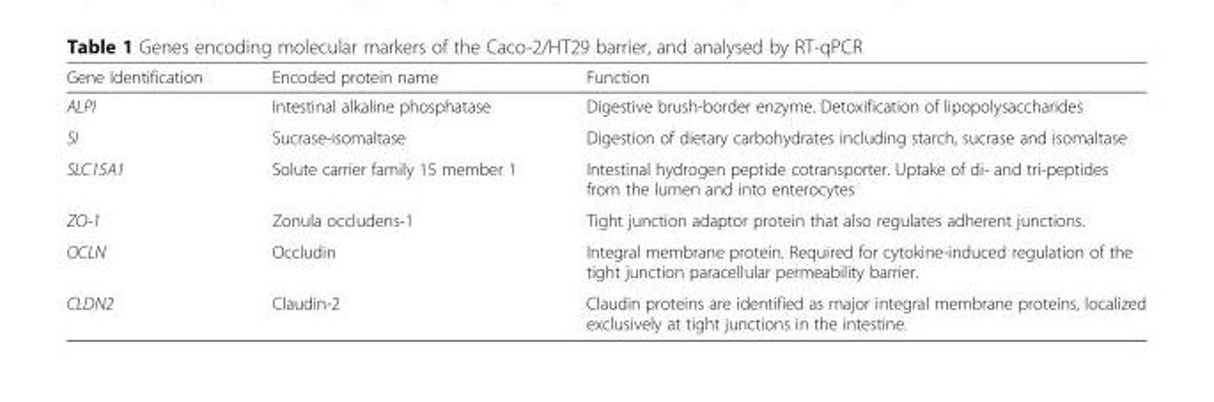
<table><thead><tr><td>Gene Identification</td><td>Encoded protein name</td><td>Function</td></tr></thead><tbody><tr><td>ALPI</td><td>Intestinal alkaline phosphatase</td><td>Digestive brush-border enzyme. Detoxification of lipopolysaccharides</td></tr><tr><td>SI</td><td>Sucrase-isomaltase</td><td>Digestion of dietary carbohydrates including starch, sucrase and isomaltase</td></tr><tr><td>SLC15A1</td><td>Solute carrier family 15 member 1</td><td>Intestinal hydrogen peptide cotransporter. Uptake of di- and tri-peptides from the lumen and into enterocytes</td></tr><tr><td>ZO-1</td><td>Zonula occludens-1</td><td>Tight junction adaptor protein that also regulates adherent junctions.</td></tr><tr><td>OCLN</td><td>Occludin</td><td>Integral membrane protein. Required for cytokine-induced regulation of the tight junction paracellular permeability barrier.</td></tr><tr><td>CLDN2</td><td>Claudin-2</td><td>Claudin proteins are identified as major integral membrane proteins, localized exclusively at tight junctions in the intestine.</td></tr></tbody></table>